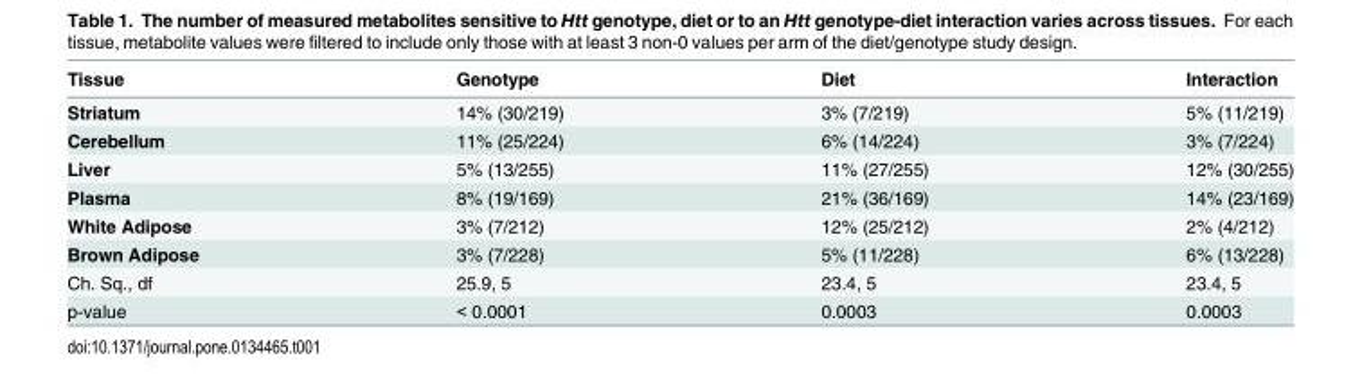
<table><thead><tr><td>Tissue</td><td>Genotype</td><td>Diet</td><td>Interaction</td></tr></thead><tbody><tr><td>Striatum</td><td>14% (30/219)</td><td>3% (7/219)</td><td>5% (11/219)</td></tr><tr><td>Cerebellum</td><td>11% (25/224)</td><td>6% (14/224)</td><td>3% (7/224)</td></tr><tr><td>Liver</td><td>5% (13/255)</td><td>11% (27/255)</td><td>12% (30/255)</td></tr><tr><td>Plasma</td><td>8% (19/169)</td><td>21% (36/169)</td><td>14% (23/169)</td></tr><tr><td>White Adipose</td><td>3% (7/212)</td><td>12% (25/212)</td><td>2% (4/212)</td></tr><tr><td>Brown Adipose</td><td>3% (7/228)</td><td>5% (11/228)</td><td>6% (13/228)</td></tr><tr><td>Ch. Sq., df</td><td>25.9, 5</td><td>23.4, 5</td><td>23.4, 5</td></tr><tr><td>p-value</td><td>&lt; 0.0001</td><td>0.0003</td><td>0.0003</td></tr></tbody></table>